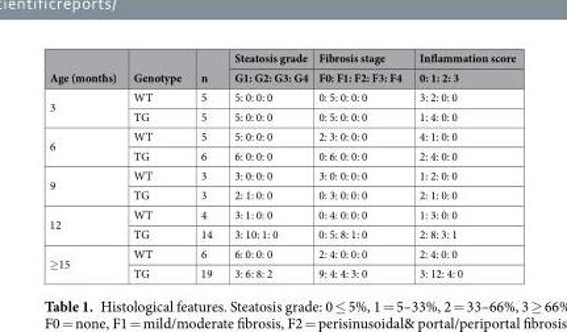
<table><thead><tr><td rowspan="2">Age (months)</td><td rowspan="2">Genotype</td><td rowspan="2">n</td><td rowspan="2">Steatosis grade G1: G2: G3: G4</td><td rowspan="2">Fibrosis stage F0: F1: F2: F3: F4</td><td rowspan="2">Inflammation score 0: 1: 2: 3</td></tr><tr></tr></thead><tbody><tr><td rowspan="2">3</td><td>WT</td><td>5</td><td>5: 0: 0: 0</td><td>0: 5: 0: 0: 0</td><td>3: 2: 0: 0</td></tr><tr><td>TG</td><td>5</td><td>5: 0: 0: 0</td><td>0: 5: 0: 0: 0</td><td>1: 4: 0: 0</td></tr><tr><td rowspan="2">6</td><td>WT</td><td>5</td><td>5: 0: 0: 0</td><td>2: 3: 0: 0: 0</td><td>4: 1: 0: 0</td></tr><tr><td>TG</td><td>6</td><td>6: 0: 0: 0</td><td>0: 6: 0: 0: 0</td><td>2: 4: 0: 0</td></tr><tr><td rowspan="2">9</td><td>WT</td><td>3</td><td>3: 0: 0: 0</td><td>3: 0: 0: 0: 0</td><td>1: 2: 0: 0</td></tr><tr><td>TG</td><td>3</td><td>2: 1: 0: 0</td><td>0: 3: 0: 0: 0</td><td>2: 1: 0: 0</td></tr><tr><td rowspan="2">12</td><td>WT</td><td>4</td><td>3: 1: 0: 0</td><td>0: 4: 0: 0: 0</td><td>1: 3: 0: 0</td></tr><tr><td>TG</td><td>14</td><td>3: 10: 1: 0</td><td>0: 5: 8: 1: 0</td><td>2: 8: 3: 1</td></tr><tr><td rowspan="2">≥15</td><td>WT</td><td>6</td><td>6: 0: 0: 0</td><td>2: 4: 0: 0: 0</td><td>2: 4: 0: 0</td></tr><tr><td>TG</td><td>19</td><td>3: 6: 8: 2</td><td>9: 4: 4: 3: 0</td><td>3: 12: 4: 0</td></tr></tbody></table>